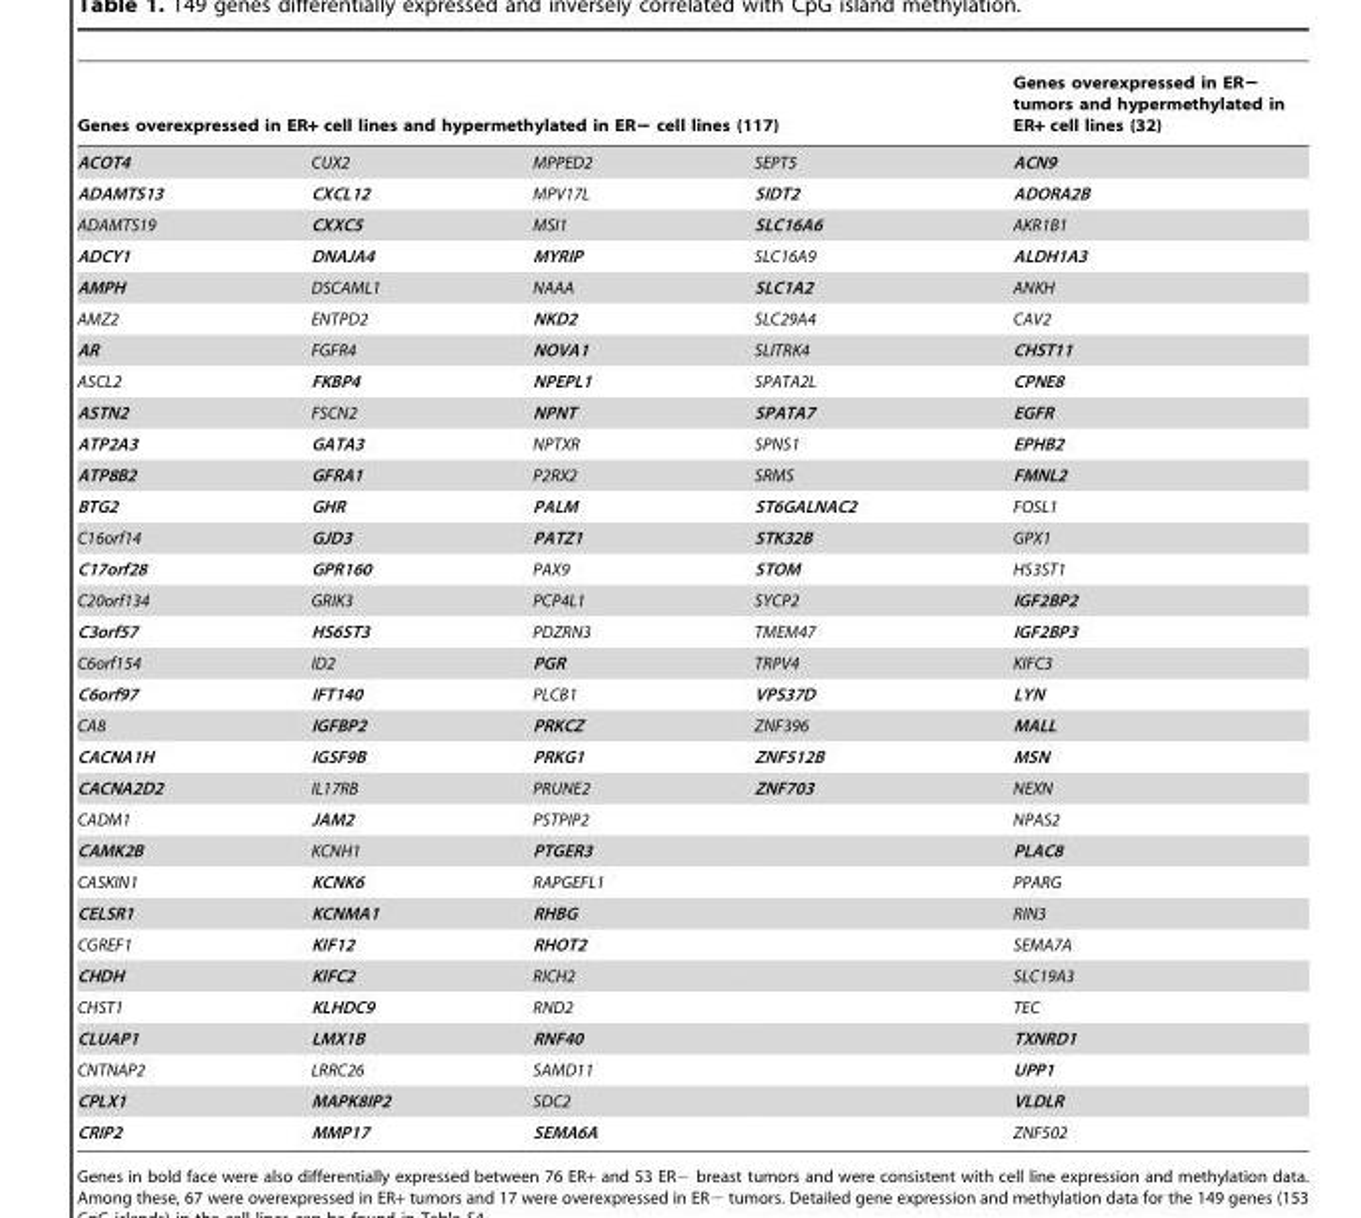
<table><thead><tr><td colspan="4">Genes overexpressed in ER+ cell lines and hypermethylated in ER− cell lines (117)</td><td rowspan="2">Genes overexpressed in ER− tumors and hypermethylated in ER+ cell lines (32) ACN9</td></tr><tr><td>ACOT4</td><td>CUX2</td><td>MPPED2</td><td>SEPT5</td></tr></thead><tbody><tr><td>ADAMTS13</td><td>CXCL12</td><td>MPV17L</td><td>SIDT2</td><td>ADORA2B</td></tr><tr><td>ADAMTS19</td><td>CXXC5</td><td>MSI1</td><td>SLC16A6</td><td>AKR1B1</td></tr><tr><td>ADCY1</td><td>DNAJA4</td><td>MYRIP</td><td>SLC16A9</td><td>ALDH1A3</td></tr><tr><td>AMPH</td><td>DSCAML1</td><td>NAAA</td><td>SLC1A2</td><td>ANKH</td></tr><tr><td>AMZ2</td><td>ENTPD2</td><td>NKD2</td><td>SLC29A4</td><td>CAV2</td></tr><tr><td>AR</td><td>FGFR4</td><td>NOVA1</td><td>SLITRK4</td><td>CHST11</td></tr><tr><td>ASCL2</td><td>FKBP4</td><td>NPEPL1</td><td>SPATA2L</td><td>CPNE8</td></tr><tr><td>ASTN2</td><td>FSCN2</td><td>NPNT</td><td>SPATA7</td><td>EGFR</td></tr><tr><td>ATP2A3</td><td>GATA3</td><td>NPTXR</td><td>SPNS1</td><td>EPHB2</td></tr><tr><td>ATP8B2</td><td>GFRA1</td><td>P2RX2</td><td>SRMS</td><td>FMNL2</td></tr><tr><td>BTG2</td><td>GHR</td><td>PALM</td><td>ST6GALNAC2</td><td>FOSL1</td></tr><tr><td>C16orf14</td><td>GJD3</td><td>PATZ1</td><td>STK32B</td><td>GPX1</td></tr><tr><td>C17orf28</td><td>GPR160</td><td>PAX9</td><td>STOM</td><td>HS3ST1</td></tr><tr><td>C20orf134</td><td>GRIK3</td><td>PCP4L1</td><td>SYCP2</td><td>IGF2BP2</td></tr><tr><td>C3orf57</td><td>HS6ST3</td><td>PDZRN3</td><td>TMEM47</td><td>IGF2BP3</td></tr><tr><td>C6orf154</td><td>ID2</td><td>PGR</td><td>TRPV4</td><td>KIFC3</td></tr><tr><td>C6orf97</td><td>IFT140</td><td>PLCB1</td><td>VPS37D</td><td>LYN</td></tr><tr><td>CA8</td><td>IGFBP2</td><td>PRKCZ</td><td>ZNF396</td><td>MALL</td></tr><tr><td>CACNA1H</td><td>IGSF9B</td><td>PRKG1</td><td>ZNF512B</td><td>MSN</td></tr><tr><td>CACNA2D2</td><td>IL17RB</td><td>PRUNE2</td><td>ZNF703</td><td>NEXN</td></tr><tr><td>CADM1</td><td>JAM2</td><td>PSTPIP2</td><td></td><td>NPAS2</td></tr><tr><td>CAMK2B</td><td>KCNH1</td><td>PTGER3</td><td></td><td>PLAC8</td></tr><tr><td>CASKIN1</td><td>KCNK6</td><td>RAPGEFL1</td><td></td><td>PPARG</td></tr><tr><td>CELSR1</td><td>KCNMA1</td><td>RHBG</td><td></td><td>RIN3</td></tr><tr><td>CGREF1</td><td>KIF12</td><td>RHOT2</td><td></td><td>SEMA7A</td></tr><tr><td>CHDH</td><td>KIFC2</td><td>RICH2</td><td></td><td>SLC19A3</td></tr><tr><td>CHST1</td><td>KLHDC9</td><td>RND2</td><td></td><td>TEC</td></tr><tr><td>CLUAP1</td><td>LMX1B</td><td>RNF40</td><td></td><td>TXNRD1</td></tr><tr><td>CNTNAP2</td><td>LRRC26</td><td>SAMD11</td><td></td><td>UPP1</td></tr><tr><td>CPLX1</td><td>MAPK8IP2</td><td>SDC2</td><td></td><td>VLDLR</td></tr><tr><td>CRIP2</td><td>MMP17</td><td>SEMA6A</td><td></td><td>ZNF502</td></tr></tbody></table>